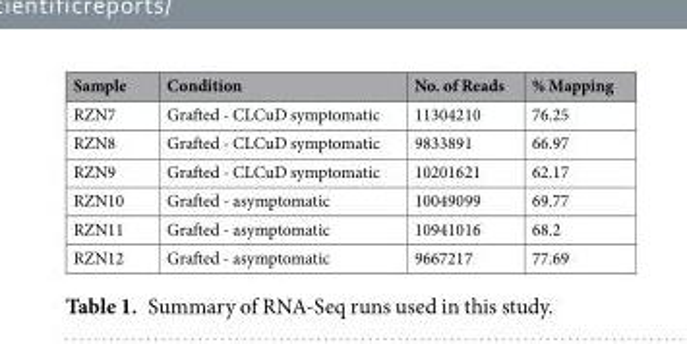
<table><thead><tr><td>Sample</td><td>Condition</td><td>No. of Reads</td><td>% Mapping</td></tr></thead><tbody><tr><td>RZN7</td><td>Grafted - CLCuD symptomatic</td><td>11304210</td><td>76.25</td></tr><tr><td>RZN8</td><td>Grafted - CLCuD symptomatic</td><td>9833891</td><td>66.97</td></tr><tr><td>RZN9</td><td>Grafted - CLCuD symptomatic</td><td>10201621</td><td>62.17</td></tr><tr><td>RZN10</td><td>Grafted - asymptomatic</td><td>10049099</td><td>69.77</td></tr><tr><td>RZN11</td><td>Grafted - asymptomatic</td><td>10941016</td><td>68.2</td></tr><tr><td>RZN12</td><td>Grafted - asymptomatic</td><td>9667217</td><td>77.69</td></tr></tbody></table>